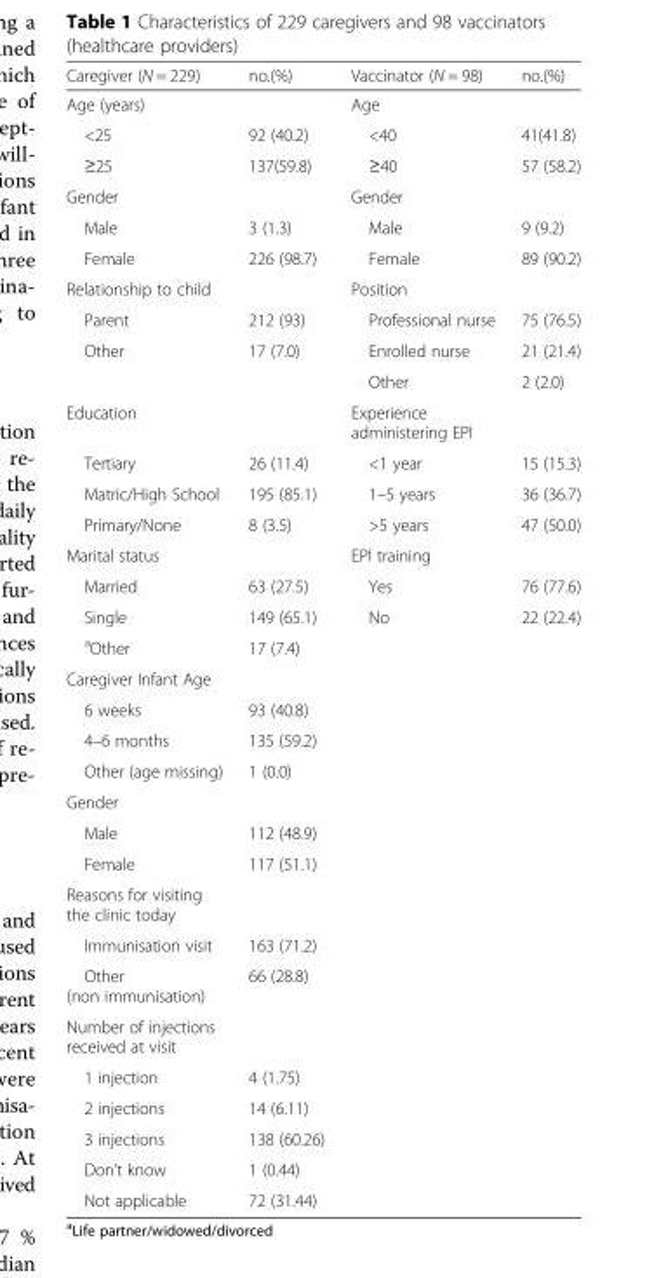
<table><thead><tr><td>Caregiver (N = 229)</td><td>no.(%)</td><td>Vaccinator (N = 98)</td><td>no.(%)</td></tr></thead><tbody><tr><td>Age (years)</td><td></td><td>Age</td><td></td></tr><tr><td>&lt;25</td><td>92 (40.2)</td><td>&lt;40</td><td>41(41.8)</td></tr><tr><td>≥25</td><td>137(59.8)</td><td>≥40</td><td>57 (58.2)</td></tr><tr><td>Gender</td><td></td><td>Gender</td><td></td></tr><tr><td>Male</td><td>3 (1.3)</td><td>Male</td><td>9 (9.2)</td></tr><tr><td>Female</td><td>226 (98.7)</td><td>Female</td><td>89 (90.2)</td></tr><tr><td>Relationship to child</td><td></td><td>Position</td><td></td></tr><tr><td>Parent</td><td>212 (93)</td><td>Professional nurse</td><td>75 (76.5)</td></tr><tr><td rowspan="2">Other</td><td>17 (7.0)</td><td>Enrolled nurse</td><td>21 (21.4)</td></tr><tr><td></td><td>Other</td><td>2 (2.0)</td></tr><tr><td>Education</td><td></td><td>Experience administering EPI</td><td></td></tr><tr><td>Tertiary</td><td>26 (11.4)</td><td>&lt;1 year</td><td>15 (15.3)</td></tr><tr><td>Matric/High School</td><td>195 (85.1)</td><td>1–5 years</td><td>36 (36.7)</td></tr><tr><td>Primary/None</td><td>8 (3.5)</td><td>&gt;5 years</td><td>47 (50.0)</td></tr><tr><td>Marital status</td><td></td><td>EPI training</td><td></td></tr><tr><td>Married</td><td>63 (27.5)</td><td>Yes</td><td>76 (77.6)</td></tr><tr><td>Single</td><td>149 (65.1)</td><td>No</td><td>22 (22.4)</td></tr><tr><td><sup>a</sup>Other</td><td>17 (7.4)</td><td></td><td></td></tr><tr><td colspan="4">Caregiver Infant Age</td></tr><tr><td>6 weeks</td><td>93 (40.8)</td><td></td><td></td></tr><tr><td>4–6 months</td><td>135 (59.2)</td><td></td><td></td></tr><tr><td>Other (age missing)</td><td>1 (0.0)</td><td></td><td></td></tr><tr><td colspan="4">Gender</td></tr><tr><td>Male</td><td>112 (48.9)</td><td></td><td></td></tr><tr><td>Female</td><td>117 (51.1)</td><td></td><td></td></tr><tr><td colspan="4">Reasons for visiting the clinic today</td></tr><tr><td>Immunisation visit</td><td>163 (71.2)</td><td></td><td></td></tr><tr><td>Other (non immunisation)</td><td>66 (28.8)</td><td></td><td></td></tr><tr><td colspan="4">Number of injections received at visit</td></tr><tr><td>1 injection</td><td>4 (1.75)</td><td></td><td></td></tr><tr><td>2 injections</td><td>14 (6.11)</td><td></td><td></td></tr><tr><td>3 injections</td><td>138 (60.26)</td><td></td><td></td></tr><tr><td>Don’t know</td><td>1 (0.44)</td><td></td><td></td></tr><tr><td>Not applicable</td><td>72 (31.44)</td><td></td><td></td></tr></tbody></table>